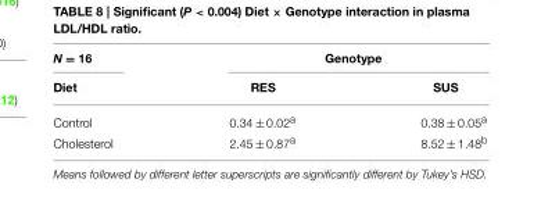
<table><thead><tr><td rowspan="2">N = 16 Diet</td><td colspan="2">Genotype</td></tr><tr><td>RES</td><td>SUS</td></tr></thead><tbody><tr><td>Control</td><td>0.34 ± 0.02<sup>a</sup></td><td>0.38 ± 0.05<sup>a</sup></td></tr><tr><td>Cholesterol</td><td>2.45 ± 0.87<sup>a</sup></td><td>8.52 ± 1.48<sup>b</sup></td></tr></tbody></table>